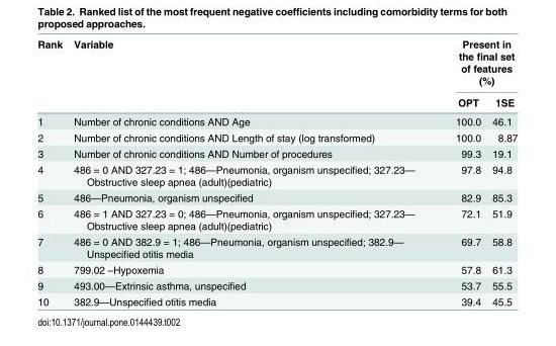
<table><thead><tr><td rowspan="2">Rank</td><td rowspan="2">Variable</td><td colspan="2">Present in the final set of features (%)</td></tr><tr><td>OPT</td><td>1SE</td></tr></thead><tbody><tr><td>1</td><td>Number of chronic conditions AND Age</td><td>100.0</td><td>46.1</td></tr><tr><td>2</td><td>Number of chronic conditions AND Length of stay (log transformed)</td><td>100.0</td><td>8.87</td></tr><tr><td>3</td><td>Number of chronic conditions AND Number of procedures</td><td>99.3</td><td>19.1</td></tr><tr><td>4</td><td>486 = 0 AND 327.23 = 1; 486—Pneumonia, organism unspecified; 327.23— Obstructive sleep apnea (adult)(pediatric)</td><td>97.8</td><td>94.8</td></tr><tr><td>5</td><td>486—Pneumonia, organism unspecified</td><td>82.9</td><td>85.3</td></tr><tr><td>6</td><td>486 = 1 AND 327.23 = 0; 486—Pneumonia, organism unspecified; 327.23— Obstructive sleep apnea (adult)(pediatric)</td><td>72.1</td><td>51.9</td></tr><tr><td>7</td><td>486 = 0 AND 382.9 = 1; 486—Pneumonia, organism unspecified; 382.9— Unspecified otitis media</td><td>69.7</td><td>58.8</td></tr><tr><td>8</td><td>799.02 –Hypoxemia</td><td>57.8</td><td>61.3</td></tr><tr><td>9</td><td>493.00—Extrinsic asthma, unspecified</td><td>53.7</td><td>55.5</td></tr><tr><td>10</td><td>382.9—Unspecified otitis media</td><td>39.4</td><td>45.5</td></tr></tbody></table>